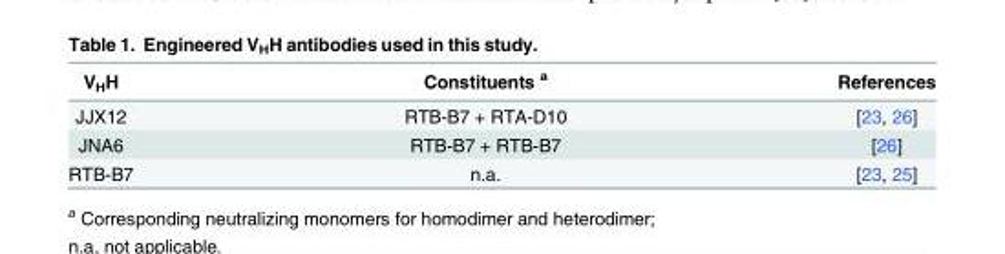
<table><thead><tr><td>V<sub>H</sub>H</td><td>Constituents <sup>a</sup></td><td>References</td></tr></thead><tbody><tr><td>JJX12</td><td>RTB-B7 + RTA-D10</td><td>[23, 26]</td></tr><tr><td>JNA6</td><td>RTB-B7 + RTB-B7</td><td>[26]</td></tr><tr><td>RTB-B7</td><td>n.a.</td><td>[23, 25]</td></tr></tbody></table>